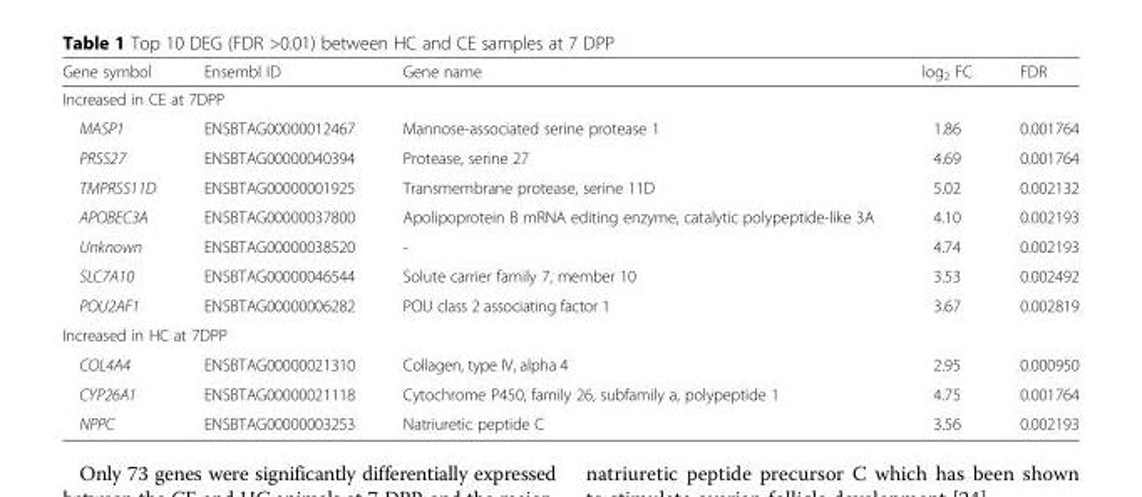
<table><thead><tr><td>Gene symbol</td><td>Ensembl ID</td><td>Gene name</td><td>log<sub>2</sub> FC</td><td>FDR</td></tr></thead><tbody><tr><td colspan="5">Increased in CE at 7DPP</td></tr><tr><td>MASP1</td><td>ENSBTAG00000012467</td><td>Mannose-associated serine protease 1</td><td>1.86</td><td>0.001764</td></tr><tr><td>PRSS27</td><td>ENSBTAG00000040394</td><td>Protease, serine 27</td><td>4.69</td><td>0.001764</td></tr><tr><td>TMPRSS11D</td><td>ENSBTAG00000001925</td><td>Transmembrane protease, serine 11D</td><td>5.02</td><td>0.002132</td></tr><tr><td>APOBEC3A</td><td>ENSBTAG00000037800</td><td>Apolipoprotein B mRNA editing enzyme, catalytic polypeptide-like 3A</td><td>4.10</td><td>0.002193</td></tr><tr><td>Unknown</td><td>ENSBTAG00000038520</td><td>-</td><td>4.74</td><td>0.002193</td></tr><tr><td>SLC7A10</td><td>ENSBTAG00000046544</td><td>Solute carrier family 7, member 10</td><td>3.53</td><td>0.002492</td></tr><tr><td>POU2AF1</td><td>ENSBTAG00000006282</td><td>POU class 2 associating factor 1</td><td>3.67</td><td>0.002819</td></tr><tr><td colspan="5">Increased in HC at 7DPP</td></tr><tr><td>COL4A4</td><td>ENSBTAG00000021310</td><td>Collagen, type IV, alpha 4</td><td>2.95</td><td>0.000950</td></tr><tr><td>CYP26A1</td><td>ENSBTAG00000021118</td><td>Cytochrome P450, family 26, subfamily a, polypeptide 1</td><td>4.75</td><td>0.001764</td></tr><tr><td>NPPC</td><td>ENSBTAG00000003253</td><td>Natriuretic peptide C</td><td>3.56</td><td>0.002193</td></tr></tbody></table>